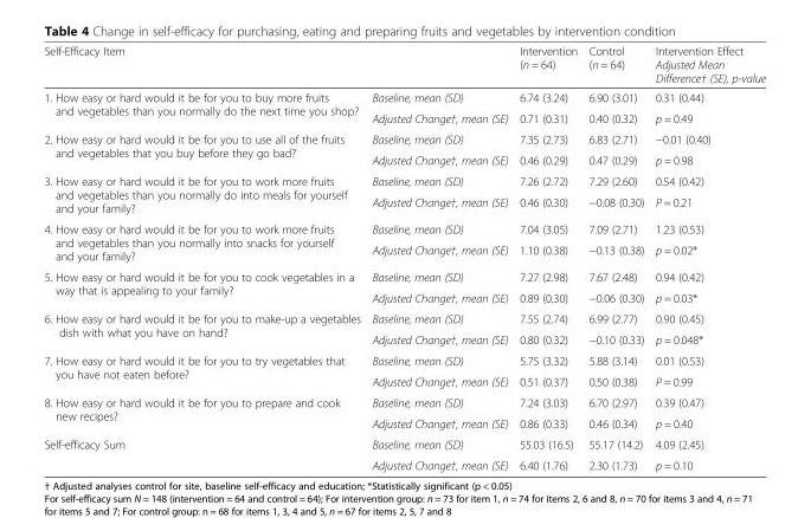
<table><thead><tr><td>Self-Efficacy Item</td><td></td><td>Intervention (n = 64)</td><td>Control (n = 64)</td><td>Intervention Effect Adjusted Mean Difference† (SE), p-value</td></tr></thead><tbody><tr><td rowspan="2">1. How easy or hard would it be for you to buy more fruits and vegetables than you normally do the next time you shop?</td><td>Baseline, mean (SD)</td><td>6.74 (3.24)</td><td>6.90 (3.01)</td><td>0.31 (0.44)</td></tr><tr><td>Adjusted Change†, mean (SE)</td><td>0.71 (0.31)</td><td>0.40 (0.32)</td><td>p = 0.49</td></tr><tr><td rowspan="2">2. How easy or hard would it be for you to use all of the fruits and vegetables that you buy before they go bad?</td><td>Baseline, mean (SD)</td><td>7.35 (2.73)</td><td>6.83 (2.71)</td><td>−0.01 (0.40)</td></tr><tr><td>Adjusted Change†, mean (SE)</td><td>0.46 (0.29)</td><td>0.47 (0.29)</td><td>p = 0.98</td></tr><tr><td rowspan="2">3. How easy or hard would it be for you to work more fruits and vegetables than you normally do into meals for yourself and your family?</td><td>Baseline, mean (SD)</td><td>7.26 (2.72)</td><td>7.29 (2.60)</td><td>0.54 (0.42)</td></tr><tr><td>Adjusted Change†, mean (SE)</td><td>0.46 (0.30)</td><td>−0.08 (0.30)</td><td>P = 0.21</td></tr><tr><td rowspan="2">4. How easy or hard would it be for you to work more fruits and vegetables than you normally into snacks for yourself and your family?</td><td>Baseline, mean (SD)</td><td>7.04 (3.05)</td><td>7.09 (2.71)</td><td>1.23 (0.53)</td></tr><tr><td>Adjusted Change†, mean (SE)</td><td>1.10 (0.38)</td><td>−0.13 (0.38)</td><td>p = 0.02*</td></tr><tr><td rowspan="2">5. How easy or hard would it be for you to cook vegetables in a way that is appealing to your family?</td><td>Baseline, mean (SD)</td><td>7.27 (2.98)</td><td>7.67 (2.48)</td><td>0.94 (0.42)</td></tr><tr><td>Adjusted Change†, mean (SE)</td><td>0.89 (0.30)</td><td>−0.06 (0.30)</td><td>p = 0.03*</td></tr><tr><td rowspan="2">6. How easy or hard would it be for you to make-up a vegetables dish with what you have on hand?</td><td>Baseline, mean (SD)</td><td>7.55 (2.74)</td><td>6.99 (2.77)</td><td>0.90 (0.45)</td></tr><tr><td>Adjusted Change†, mean (SE)</td><td>0.80 (0.32)</td><td>−0.10 (0.33)</td><td>p = 0.048*</td></tr><tr><td rowspan="2">7. How easy or hard would it be for you to try vegetables that you have not eaten before?</td><td>Baseline, mean (SD)</td><td>5.75 (3.32)</td><td>5.88 (3.14)</td><td>0.01 (0.53)</td></tr><tr><td>Adjusted Change†, mean (SE)</td><td>0.51 (0.37)</td><td>0.50 (0.38)</td><td>P = 0.99</td></tr><tr><td rowspan="2">8. How easy or hard would it be for you to prepare and cook new recipes?</td><td>Baseline, mean (SD)</td><td>7.24 (3.03)</td><td>6.70 (2.97)</td><td>0.39 (0.47)</td></tr><tr><td>Adjusted Change†, mean (SE)</td><td>0.86 (0.33)</td><td>0.46 (0.34)</td><td>p = 0.40</td></tr><tr><td rowspan="2">Self-efficacy Sum</td><td>Baseline, mean (SD)</td><td>55.03 (16.5)</td><td>55.17 (14.2)</td><td>4.09 (2.45)</td></tr><tr><td>Adjusted Change†, mean (SE)</td><td>6.40 (1.76)</td><td>2.30 (1.73)</td><td>p = 0.10</td></tr></tbody></table>